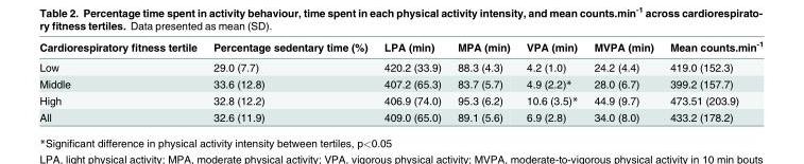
<table><thead><tr><td>Cardiorespiratory fitness tertile</td><td>Percentage sedentary time (%)</td><td>LPA (min)</td><td>MPA (min)</td><td>VPA (min)</td><td>MVPA (min)</td><td>Mean counts.min<sup>-1</sup></td></tr></thead><tbody><tr><td>Low</td><td>29.0 (7.7)</td><td>420.2 (33.9)</td><td>88.3 (4.3)</td><td>4.2 (1.0)</td><td>24.2 (4.4)</td><td>419.0 (152.3)</td></tr><tr><td>Middle</td><td>33.6 (12.8)</td><td>407.2 (65.3)</td><td>83.7 (5.7)</td><td>4.9 (2.2)*</td><td>28.0 (6.7)</td><td>399.2 (157.7)</td></tr><tr><td>High</td><td>32.8 (12.2)</td><td>406.9 (74.0)</td><td>95.3 (6.2)</td><td>10.6 (3.5)*</td><td>44.9 (9.7)</td><td>473.51 (203.9)</td></tr><tr><td>All</td><td>32.6 (11.9)</td><td>409.0 (65.0)</td><td>89.1 (5.6)</td><td>6.9 (2.8)</td><td>34.0 (8.0)</td><td>433.2 (178.2)</td></tr></tbody></table>